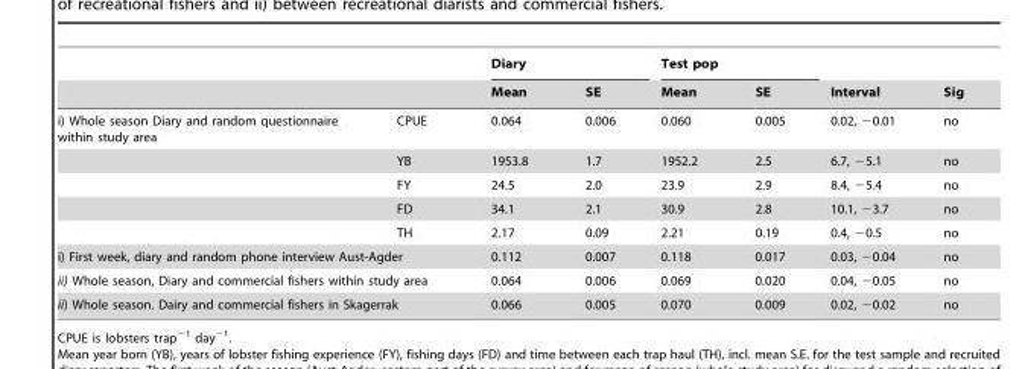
<table><thead><tr><td rowspan="2"></td><td rowspan="2"></td><td colspan="2">Diary</td><td colspan="2">Test pop</td><td rowspan="2">Interval</td><td rowspan="2">Sig</td></tr><tr><td>Mean</td><td>SE</td><td>Mean</td><td>SE</td></tr></thead><tbody><tr><td rowspan="5">i) Whole season Diary and random questionnaire within study area</td><td>CPUE</td><td>0.064</td><td>0.006</td><td>0.060</td><td>0.005</td><td>0.02, −0.01</td><td>no</td></tr><tr><td>YB</td><td>1953.8</td><td>1.7</td><td>1952.2</td><td>2.5</td><td>6.7, −5.1</td><td>no</td></tr><tr><td>FY</td><td>24.5</td><td>2.0</td><td>23.9</td><td>2.9</td><td>8.4, −5.4</td><td>no</td></tr><tr><td>FD</td><td>34.1</td><td>2.1</td><td>30.9</td><td>2.8</td><td>10.1, −3.7</td><td>no</td></tr><tr><td>TH</td><td>2.17</td><td>0.09</td><td>2.21</td><td>0.19</td><td>0.4, −0.5</td><td>no</td></tr><tr><td colspan="2">i) First week, diary and random phone interview Aust-Agder</td><td>0.112</td><td>0.007</td><td>0.118</td><td>0.017</td><td>0.03, −0.04</td><td>no</td></tr><tr><td colspan="2">ii) Whole season, Diary and commercial fishers within study area</td><td>0.064</td><td>0.006</td><td>0.069</td><td>0.020</td><td>0.04, −0.05</td><td>no</td></tr><tr><td colspan="2">ii) Whole season. Dairy and commercial fishers in Skagerrak</td><td>0.066</td><td>0.005</td><td>0.070</td><td>0.009</td><td>0.02, −0.02</td><td>no</td></tr></tbody></table>